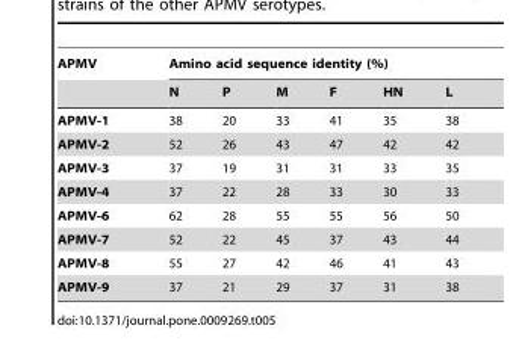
<table><thead><tr><td rowspan="2">APMV</td><td colspan="6">Amino acid sequence identity (%)</td></tr><tr><td>N</td><td>P</td><td>M</td><td>F</td><td>HN</td><td>L</td></tr></thead><tbody><tr><td>APMV-1</td><td>38</td><td>20</td><td>33</td><td>41</td><td>35</td><td>38</td></tr><tr><td>APMV-2</td><td>52</td><td>26</td><td>43</td><td>47</td><td>42</td><td>42</td></tr><tr><td>APMV-3</td><td>37</td><td>19</td><td>31</td><td>31</td><td>33</td><td>35</td></tr><tr><td>APMV-4</td><td>37</td><td>22</td><td>28</td><td>33</td><td>30</td><td>33</td></tr><tr><td>APMV-6</td><td>62</td><td>28</td><td>55</td><td>55</td><td>56</td><td>50</td></tr><tr><td>APMV-7</td><td>52</td><td>22</td><td>45</td><td>37</td><td>43</td><td>44</td></tr><tr><td>APMV-8</td><td>55</td><td>27</td><td>42</td><td>46</td><td>41</td><td>43</td></tr><tr><td>APMV-9</td><td>37</td><td>21</td><td>29</td><td>37</td><td>31</td><td>38</td></tr></tbody></table>